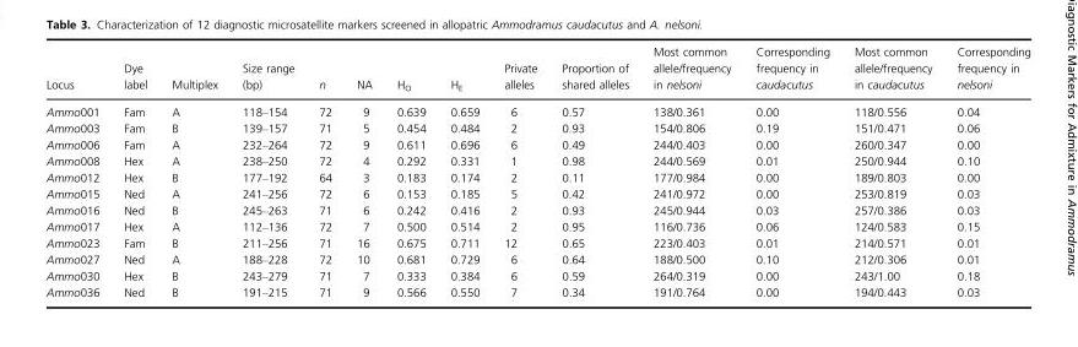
<table><thead><tr><td>Locus</td><td>Dye label</td><td>Multiplex</td><td>Size range (bp)</td><td>n</td><td>NA</td><td>H<sub>O</sub></td><td>H<sub>E</sub></td><td>Private alleles</td><td>Proportion of shared alleles</td><td>Most common allele/frequency in nelsoni</td><td>Corresponding frequency in caudacutus</td><td>Most common allele/frequency in caudacutus</td><td>Corresponding frequency in nelsoni</td></tr></thead><tbody><tr><td>Ammo001</td><td>Fam</td><td>A</td><td>118–154</td><td>72</td><td>9</td><td>0.639</td><td>0.659</td><td>6</td><td>0.57</td><td>138/0.361</td><td>0.00</td><td>118/0.556</td><td>0.04</td></tr><tr><td>Ammo003</td><td>Fam</td><td>B</td><td>139–157</td><td>71</td><td>5</td><td>0.454</td><td>0.484</td><td>2</td><td>0.93</td><td>154/0.806</td><td>0.19</td><td>151/0.471</td><td>0.06</td></tr><tr><td>Ammo006</td><td>Fam</td><td>A</td><td>232–264</td><td>72</td><td>9</td><td>0.611</td><td>0.696</td><td>6</td><td>0.49</td><td>244/0.403</td><td>0.00</td><td>260/0.347</td><td>0.00</td></tr><tr><td>Ammo008</td><td>Hex</td><td>A</td><td>238–250</td><td>72</td><td>4</td><td>0.292</td><td>0.331</td><td>1</td><td>0.98</td><td>244/0.569</td><td>0.01</td><td>250/0.944</td><td>0.10</td></tr><tr><td>Ammo012</td><td>Hex</td><td>B</td><td>177–192</td><td>64</td><td>3</td><td>0.183</td><td>0.174</td><td>2</td><td>0.11</td><td>177/0.984</td><td>0.00</td><td>189/0.803</td><td>0.00</td></tr><tr><td>Ammo015</td><td>Ned</td><td>A</td><td>241–256</td><td>72</td><td>6</td><td>0.153</td><td>0.185</td><td>5</td><td>0.42</td><td>241/0.972</td><td>0.00</td><td>253/0.819</td><td>0.03</td></tr><tr><td>Ammo016</td><td>Ned</td><td>B</td><td>245–263</td><td>71</td><td>6</td><td>0.242</td><td>0.416</td><td>2</td><td>0.93</td><td>245/0.944</td><td>0.03</td><td>257/0.386</td><td>0.03</td></tr><tr><td>Ammo017</td><td>Hex</td><td>A</td><td>112–136</td><td>72</td><td>7</td><td>0.500</td><td>0.514</td><td>2</td><td>0.95</td><td>116/0.736</td><td>0.06</td><td>124/0.583</td><td>0.15</td></tr><tr><td>Ammo023</td><td>Fam</td><td>B</td><td>211–256</td><td>71</td><td>16</td><td>0.675</td><td>0.711</td><td>12</td><td>0.65</td><td>223/0.403</td><td>0.01</td><td>214/0.571</td><td>0.01</td></tr><tr><td>Ammo027</td><td>Ned</td><td>A</td><td>188–228</td><td>72</td><td>10</td><td>0.681</td><td>0.729</td><td>6</td><td>0.64</td><td>188/0.500</td><td>0.10</td><td>212/0.306</td><td>0.01</td></tr><tr><td>Ammo030</td><td>Hex</td><td>B</td><td>243–279</td><td>71</td><td>7</td><td>0.333</td><td>0.384</td><td>6</td><td>0.59</td><td>264/0.319</td><td>0.00</td><td>243/1.00</td><td>0.18</td></tr><tr><td>Ammo036</td><td>Ned</td><td>B</td><td>191–215</td><td>71</td><td>9</td><td>0.566</td><td>0.550</td><td>7</td><td>0.34</td><td>191/0.764</td><td>0.00</td><td>194/0.443</td><td>0.03</td></tr></tbody></table>